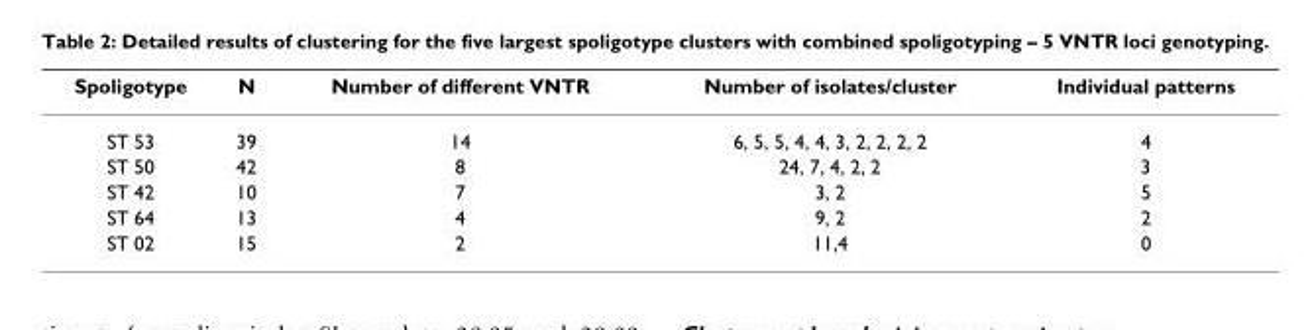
<table><thead><tr><td>Spoligotype</td><td>N</td><td>Number of different VNTR</td><td>Number of isolates/cluster</td><td>Individual patterns</td></tr></thead><tbody><tr><td>ST 53</td><td>39</td><td>14</td><td>6, 5, 5, 4, 4, 3, 2, 2, 2, 2</td><td>4</td></tr><tr><td>ST 50</td><td>42</td><td>8</td><td>24, 7, 4, 2, 2</td><td>3</td></tr><tr><td>ST 42</td><td>10</td><td>7</td><td>3, 2</td><td>5</td></tr><tr><td>ST 64</td><td>13</td><td>4</td><td>9, 2</td><td>2</td></tr><tr><td>ST 02</td><td>15</td><td>2</td><td>11,4</td><td>0</td></tr></tbody></table>